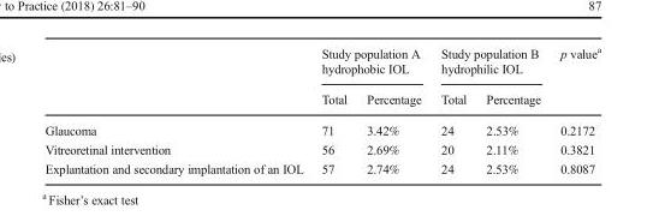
<table><thead><tr><td rowspan="2"></td><td colspan="2">Study population A hydrophobic IOL</td><td colspan="2">Study population B hydrophilic IOL</td><td rowspan="2">p value<sup>a</sup></td></tr><tr><td>Total</td><td>Percentage</td><td>Total</td><td>Percentage</td></tr></thead><tbody><tr><td>Glaucoma</td><td>71</td><td>3.42%</td><td>24</td><td>2.53%</td><td>0.2172</td></tr><tr><td>Vitreoretinal intervention</td><td>56</td><td>2.69%</td><td>20</td><td>2.11%</td><td>0.3821</td></tr><tr><td>Explantation and secondary implantation of an IOL</td><td>57</td><td>2.74%</td><td>24</td><td>2.53%</td><td>0.8087</td></tr></tbody></table>